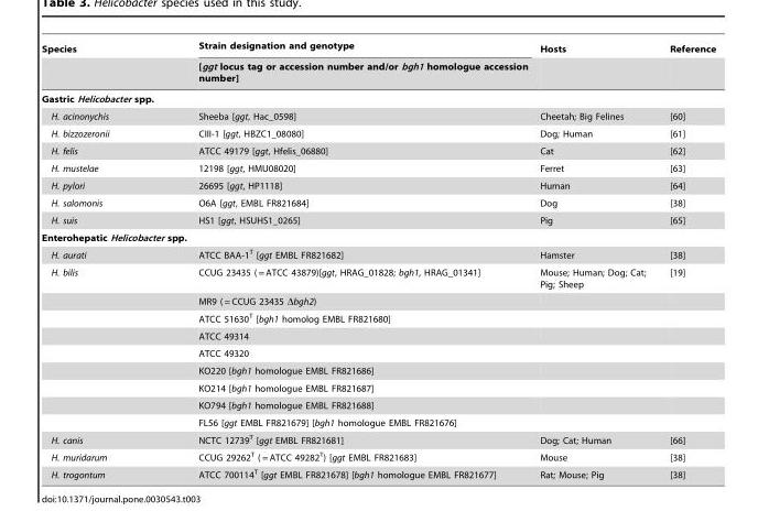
<table><thead><tr><td rowspan="2">Species</td><td rowspan="2">Strain designation and genotype [ggt locus tag or accession number and/or bgh1 homologue accession number]</td><td rowspan="2">Hosts</td><td rowspan="2">Reference</td></tr><tr></tr></thead><tbody><tr><td colspan="4">Gastric Helicobacter spp.</td></tr><tr><td>H. acinonychis</td><td>Sheeba [ggt, Hac_0598]</td><td>Cheetah; Big Felines</td><td>[60]</td></tr><tr><td>H. bizzozeronii</td><td>CIII-1 [ggt, HBZC1_08080]</td><td>Dog; Human</td><td>[61]</td></tr><tr><td>H. felis</td><td>ATCC 49179 [ggt, Hfelis_06880]</td><td>Cat</td><td>[62]</td></tr><tr><td>H. mustelae</td><td>12198 [ggt, HMU08020]</td><td>Ferret</td><td>[63]</td></tr><tr><td>H. pylori</td><td>26695 [ggt, HP1118]</td><td>Human</td><td>[64]</td></tr><tr><td>H. salomonis</td><td>O6A [ggt, EMBL FR821684]</td><td>Dog</td><td>[38]</td></tr><tr><td>H. suis</td><td>HS1 [ggt, HSUHS1_0265]</td><td>Pig</td><td>[65]</td></tr><tr><td colspan="4">Enterohepatic Helicobacter spp.</td></tr><tr><td>H. aurati</td><td>ATCC BAA-1<sup>T</sup> [ggt EMBL FR821682]</td><td>Hamster</td><td>[38]</td></tr><tr><td rowspan="9">H. bilis</td><td>CCUG 23435 ( = ATCC 43879)[ggt, HRAG_01828; bgh1, HRAG_01341]</td><td>Mouse; Human; Dog; Cat; Pig; Sheep</td><td>[19]</td></tr><tr><td>MR9 ( = CCUG 23435 Δbgh2)</td><td></td><td></td></tr><tr><td>ATCC 51630<sup>T</sup> [bgh1 homolog EMBL FR821680]</td><td></td><td></td></tr><tr><td>ATCC 49314</td><td></td><td></td></tr><tr><td>ATCC 49320</td><td></td><td></td></tr><tr><td>KO220 [bgh1 homologue EMBL FR821686]</td><td></td><td></td></tr><tr><td>KO214 [bgh1 homologue EMBL FR821687]</td><td></td><td></td></tr><tr><td>KO794 [bgh1 homologue EMBL FR821688]</td><td></td><td></td></tr><tr><td>FL56 [ggt EMBL FR821679] [bgh1 homologue EMBL FR821676]</td><td></td><td></td></tr><tr><td>H. canis</td><td>NCTC 12739<sup>T</sup> [ggt EMBL FR821681]</td><td>Dog; Cat; Human</td><td>[66]</td></tr><tr><td>H. muridarum</td><td>CCUG 29262<sup>T</sup> ( = ATCC 49282<sup>T</sup>) [ggt EMBL FR821683]</td><td>Mouse</td><td>[38]</td></tr><tr><td>H. trogontum</td><td>ATCC 700114<sup>T</sup> [ggt EMBL FR821678] [bgh1 homologue EMBL FR821677]</td><td>Rat; Mouse; Pig</td><td>[38]</td></tr></tbody></table>